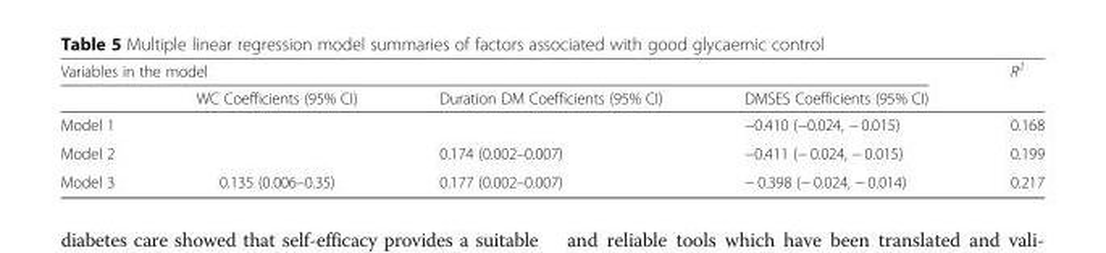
<table><thead><tr><td colspan="4">Variables in the model</td><td rowspan="2">R<sup>2</sup></td></tr><tr><td></td><td>WC Coefficients (95% CI)</td><td>Duration DM Coefficients (95% CI)</td><td>DMSES Coefficients (95% CI)</td></tr></thead><tbody><tr><td>Model 1</td><td></td><td></td><td>−0.410 (−0.024, − 0.015)</td><td>0.168</td></tr><tr><td>Model 2</td><td></td><td>0.174 (0.002–0.007)</td><td>−0.411 (− 0.024, − 0.015)</td><td>0.199</td></tr><tr><td>Model 3</td><td>0.135 (0.006–0.35)</td><td>0.177 (0.002–0.007)</td><td>− 0.398 (− 0.024, − 0.014)</td><td>0.217</td></tr></tbody></table>